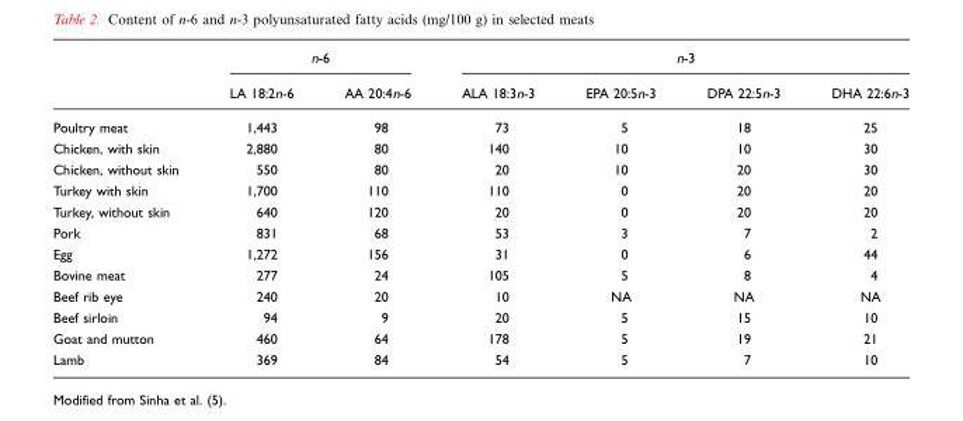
<table><thead><tr><td rowspan="2"></td><td colspan="2">n-6</td><td colspan="4">n-3</td></tr><tr><td>LA 18:2n-6</td><td>AA 20:4n-6</td><td>ALA 18:3n-3</td><td>EPA 20:5n-3</td><td>DPA 22:5n-3</td><td>DHA 22:6n-3</td></tr></thead><tbody><tr><td>Poultry meat</td><td>1,443</td><td>98</td><td>73</td><td>5</td><td>18</td><td>25</td></tr><tr><td>Chicken, with skin</td><td>2,880</td><td>80</td><td>140</td><td>10</td><td>10</td><td>30</td></tr><tr><td>Chicken, without skin</td><td>550</td><td>80</td><td>20</td><td>10</td><td>20</td><td>30</td></tr><tr><td>Turkey with skin</td><td>1,700</td><td>110</td><td>110</td><td>0</td><td>20</td><td>20</td></tr><tr><td>Turkey, without skin</td><td>640</td><td>120</td><td>20</td><td>0</td><td>20</td><td>20</td></tr><tr><td>Pork</td><td>831</td><td>68</td><td>53</td><td>3</td><td>7</td><td>2</td></tr><tr><td>Egg</td><td>1,272</td><td>156</td><td>31</td><td>0</td><td>6</td><td>44</td></tr><tr><td>Bovine meat</td><td>277</td><td>24</td><td>105</td><td>5</td><td>8</td><td>4</td></tr><tr><td>Beef rib eye</td><td>240</td><td>20</td><td>10</td><td>NA</td><td>NA</td><td>NA</td></tr><tr><td>Beef sirloin</td><td>94</td><td>9</td><td>20</td><td>5</td><td>15</td><td>10</td></tr><tr><td>Goat and mutton</td><td>460</td><td>64</td><td>178</td><td>5</td><td>19</td><td>21</td></tr><tr><td>Lamb</td><td>369</td><td>84</td><td>54</td><td>5</td><td>7</td><td>10</td></tr></tbody></table>